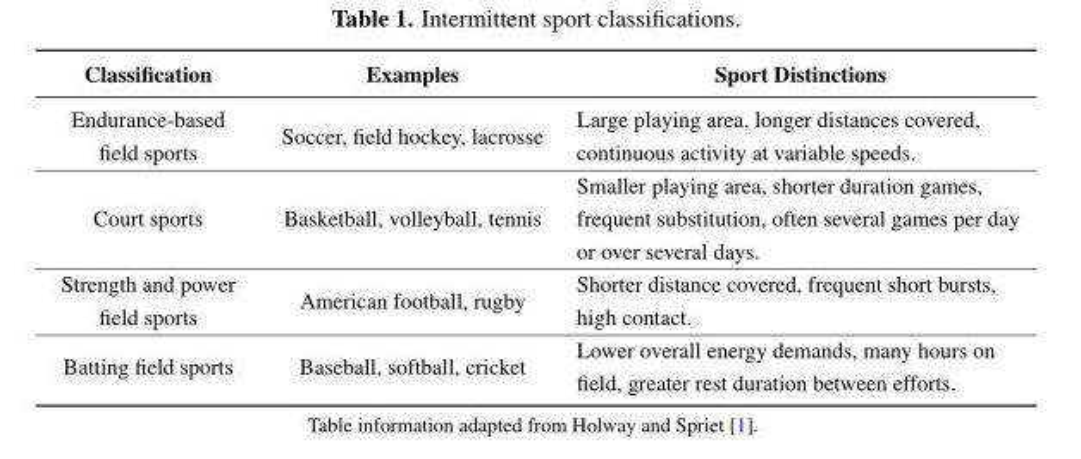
<table><thead><tr><td>Classification</td><td>Examples</td><td>Sport Distinctions</td></tr></thead><tbody><tr><td>Endurance-based field sports</td><td>Soccer, field hockey, lacrosse</td><td>Large playing area, longer distances covered, continuous activity at variable speeds.</td></tr><tr><td>Court sports</td><td>Basketball, volleyball, tennis</td><td>Smaller playing area, shorter duration games, frequent substitution, often several games per day or over several days.</td></tr><tr><td>Strength and power field sports</td><td>American football, rugby</td><td>Shorter distance covered, frequent short bursts, high contact.</td></tr><tr><td>Batting field sports</td><td>Baseball, softball, cricket</td><td>Lower overall energy demands, many hours on field, greater rest duration between efforts.</td></tr></tbody></table>